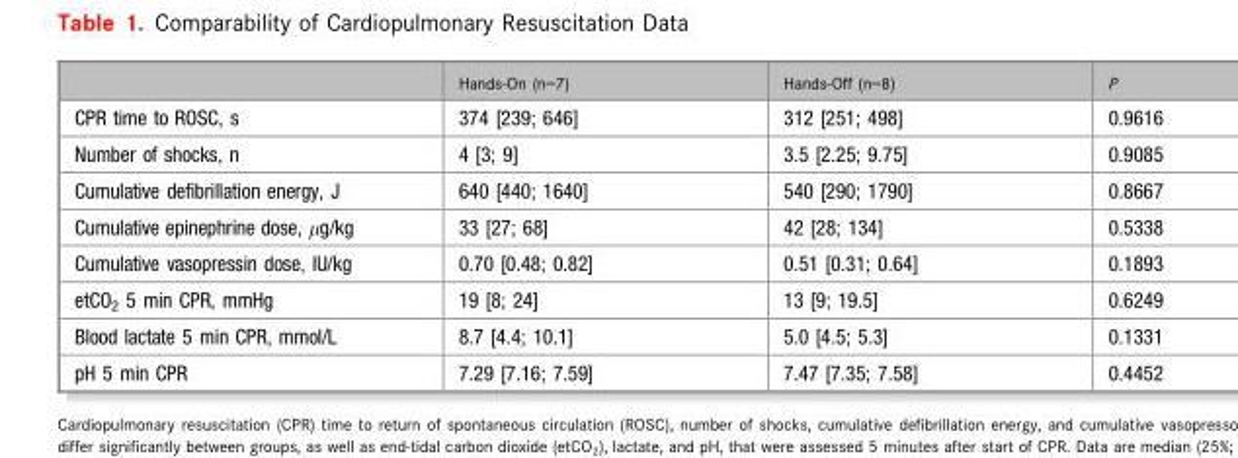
<table><thead><tr><td></td><td>Hands-On (n=7)</td><td>Hands-Off (n=8)</td><td>P</td></tr></thead><tbody><tr><td>CPR time to ROSC, s</td><td>374 [239; 646]</td><td>312 [251; 498]</td><td>0.9616</td></tr><tr><td>Number of shocks, n</td><td>4 [3; 9]</td><td>3.5 [2.25; 9.75]</td><td>0.9085</td></tr><tr><td>Cumulative defibrillation energy, J</td><td>640 [440; 1640]</td><td>540 [290; 1790]</td><td>0.8667</td></tr><tr><td>Cumulative epinephrine dose, μg/kg</td><td>33 [27; 68]</td><td>42 [28; 134]</td><td>0.5338</td></tr><tr><td>Cumulative vasopressin dose, IU/kg</td><td>0.70 [0.48; 0.82]</td><td>0.51 [0.31; 0.64]</td><td>0.1893</td></tr><tr><td>etCO<sub>2</sub> 5 min CPR, mmHg</td><td>19 [8; 24]</td><td>13 [9; 19.5]</td><td>0.6249</td></tr><tr><td>Blood lactate 5 min CPR, mmol/L</td><td>8.7 [4.4; 10.1]</td><td>5.0 [4.5; 5.3]</td><td>0.1331</td></tr><tr><td>pH 5 min CPR</td><td>7.29 [7.16; 7.59]</td><td>7.47 [7.35; 7.58]</td><td>0.4452</td></tr></tbody></table>